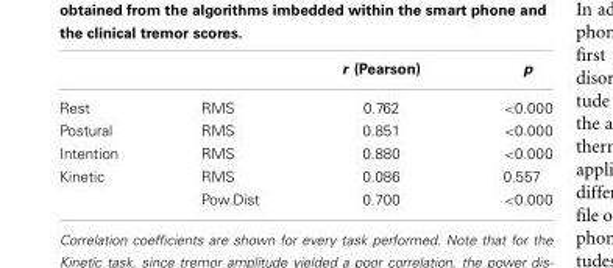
<table><thead><tr><td></td><td></td><td>r (Pearson)</td><td>p</td></tr></thead><tbody><tr><td>Rest</td><td>RMS</td><td>0.762</td><td>&lt;0.000</td></tr><tr><td>Postural</td><td>RMS</td><td>0.851</td><td>&lt;0.000</td></tr><tr><td>Intention</td><td>RMS</td><td>0.880</td><td>&lt;0.000</td></tr><tr><td rowspan="2">Kinetic</td><td>RMS</td><td>0.086</td><td>0.557</td></tr><tr><td>Pow.Dist</td><td>0.700</td><td>&lt;0.000</td></tr></tbody></table>